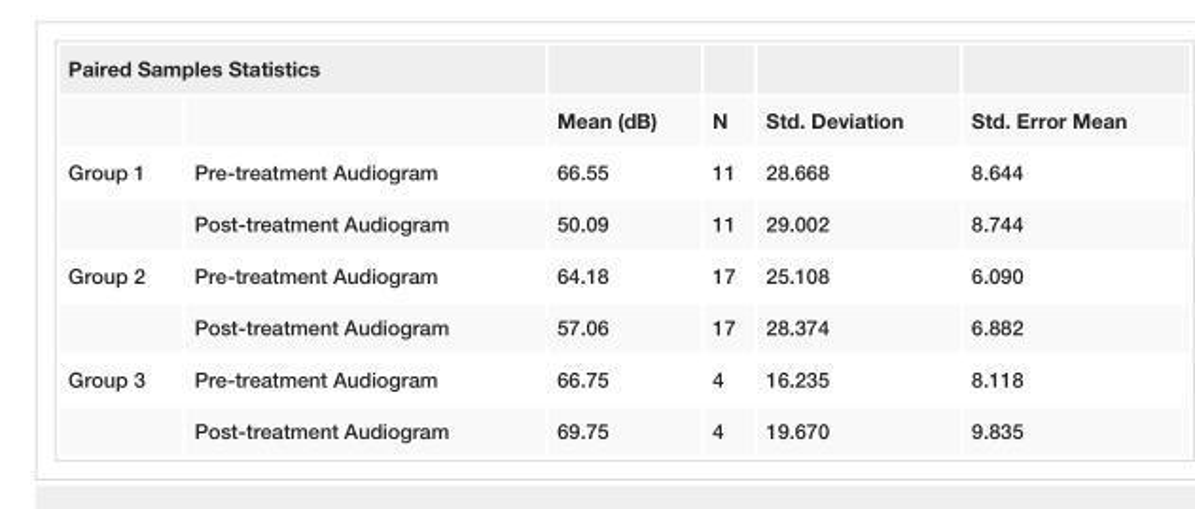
<table><tbody><tr><td colspan="6">Paired Samples Statistics</td></tr><tr><td></td><td></td><td>Mean (dB)</td><td>N</td><td>Std. Deviation</td><td>Std. Error Mean</td></tr><tr><td rowspan="2">Group 1</td><td>Pre-treatment Audiogram</td><td>66.55</td><td>11</td><td>28.668</td><td>8.644</td></tr><tr><td>Post-treatment Audiogram</td><td>50.09</td><td>11</td><td>29.002</td><td>8.744</td></tr><tr><td rowspan="2">Group 2</td><td>Pre-treatment Audiogram</td><td>64.18</td><td>17</td><td>25.108</td><td>6.090</td></tr><tr><td>Post-treatment Audiogram</td><td>57.06</td><td>17</td><td>28.374</td><td>6.882</td></tr><tr><td rowspan="2">Group 3</td><td>Pre-treatment Audiogram</td><td>66.75</td><td>4</td><td>16.235</td><td>8.118</td></tr><tr><td>Post-treatment Audiogram</td><td>69.75</td><td>4</td><td>19.670</td><td>9.835</td></tr></tbody></table>